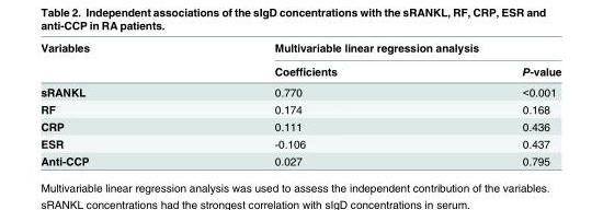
<table><thead><tr><td rowspan="2">Variables</td><td colspan="2">Multivariable linear regression analysis</td></tr><tr><td>Coefficients</td><td>P-value</td></tr></thead><tbody><tr><td>sRANKL</td><td>0.770</td><td>&lt;0.001</td></tr><tr><td>RF</td><td>0.174</td><td>0.168</td></tr><tr><td>CRP</td><td>0.111</td><td>0.436</td></tr><tr><td>ESR</td><td>-0.106</td><td>0.437</td></tr><tr><td>Anti-CCP</td><td>0.027</td><td>0.795</td></tr></tbody></table>